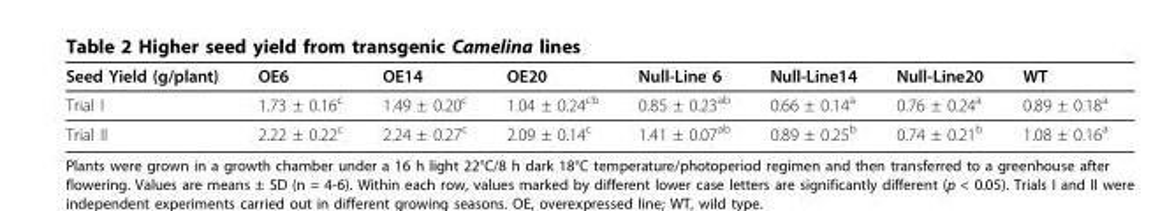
<table><thead><tr><td>Seed Yield (g/plant)</td><td>OE6</td><td>OE14</td><td>OE20</td><td>Null-Line 6</td><td>Null-Line14</td><td>Null-Line20</td><td>WT</td></tr></thead><tbody><tr><td>Trial I</td><td>1.73 ± 0.16<sup>c</sup></td><td>1.49 ± 0.20<sup>c</sup></td><td>1.04 ± 0.24<sup>cb</sup></td><td>0.85 ± 0.23<sup>ab</sup></td><td>0.66 ± 0.14<sup>a</sup></td><td>0.76 ± 0.24<sup>a</sup></td><td>0.89 ± 0.18<sup>a</sup></td></tr><tr><td>Trial II</td><td>2.22 ± 0.22<sup>c</sup></td><td>2.24 ± 0.27<sup>c</sup></td><td>2.09 ± 0.14<sup>c</sup></td><td>1.41 ± 0.07<sup>ab</sup></td><td>0.89 ± 0.25<sup>b</sup></td><td>0.74 ± 0.21<sup>b</sup></td><td>1.08 ± 0.16<sup>a</sup></td></tr></tbody></table>